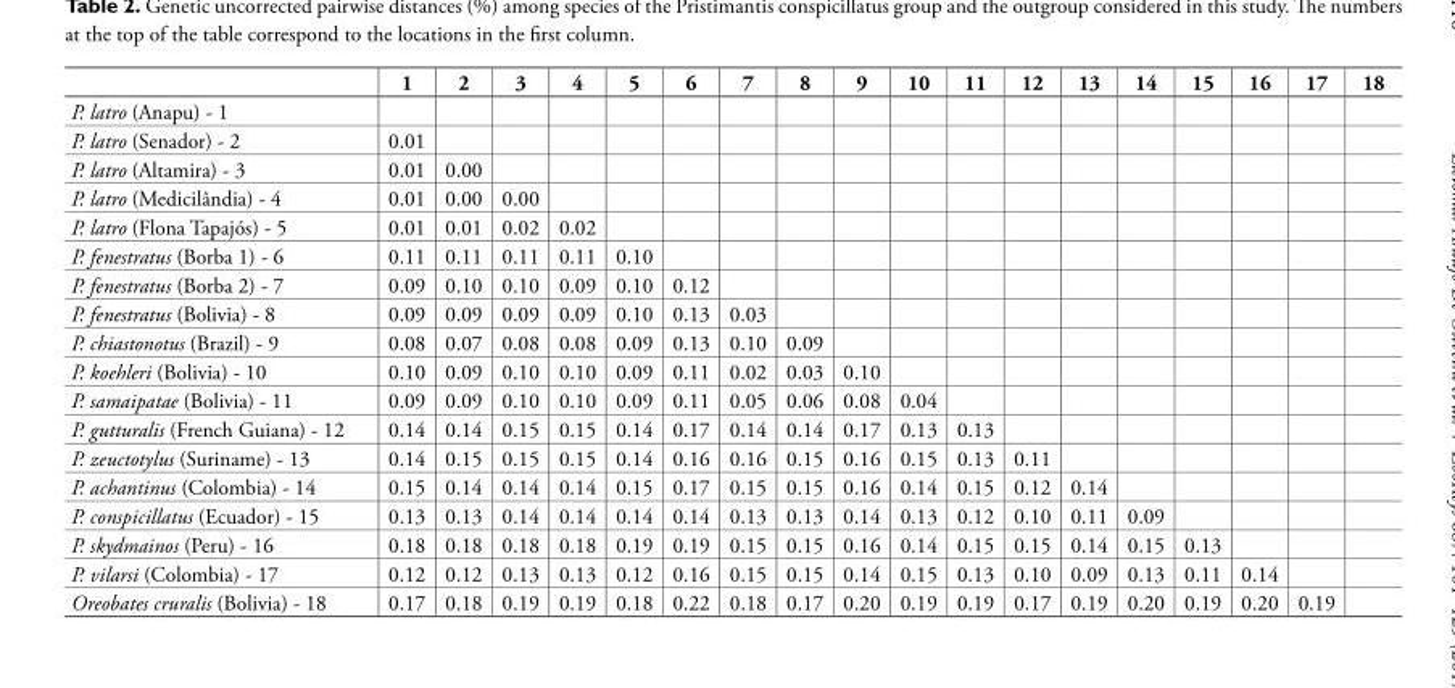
<table><thead><tr><td></td><td>1</td><td>2</td><td>3</td><td>4</td><td>5</td><td>6</td><td>7</td><td>8</td><td>9</td><td>10</td><td>11</td><td>12</td><td>13</td><td>14</td><td>15</td><td>16</td><td>17</td><td>18</td></tr></thead><tbody><tr><td colspan="19">P. latro (Anapu) - 1</td></tr><tr><td>P. latro (Senador) - 2</td><td>0.01</td><td></td><td></td><td></td><td></td><td></td><td></td><td></td><td></td><td></td><td></td><td></td><td></td><td></td><td></td><td></td><td></td><td></td></tr><tr><td>P. latro (Altamira) - 3</td><td>0.01</td><td>0.00</td><td></td><td></td><td></td><td></td><td></td><td></td><td></td><td></td><td></td><td></td><td></td><td></td><td></td><td></td><td></td><td></td></tr><tr><td>P. latro (Medicilândia) - 4</td><td>0.01</td><td>0.00</td><td>0.00</td><td></td><td></td><td></td><td></td><td></td><td></td><td></td><td></td><td></td><td></td><td></td><td></td><td></td><td></td><td></td></tr><tr><td>P. latro (Flona Tapajós) - 5</td><td>0.01</td><td>0.01</td><td>0.02</td><td>0.02</td><td></td><td></td><td></td><td></td><td></td><td></td><td></td><td></td><td></td><td></td><td></td><td></td><td></td><td></td></tr><tr><td>P. fenestratus (Borba 1) - 6</td><td>0.11</td><td>0.11</td><td>0.11</td><td>0.11</td><td>0.10</td><td></td><td></td><td></td><td></td><td></td><td></td><td></td><td></td><td></td><td></td><td></td><td></td><td></td></tr><tr><td>P. fenestratus (Borba 2) - 7</td><td>0.09</td><td>0.10</td><td>0.10</td><td>0.09</td><td>0.10</td><td>0.12</td><td></td><td></td><td></td><td></td><td></td><td></td><td></td><td></td><td></td><td></td><td></td><td></td></tr><tr><td>P. fenestratus (Bolivia) - 8</td><td>0.09</td><td>0.09</td><td>0.09</td><td>0.09</td><td>0.10</td><td>0.13</td><td>0.03</td><td></td><td></td><td></td><td></td><td></td><td></td><td></td><td></td><td></td><td></td><td></td></tr><tr><td>P. chiastonotus (Brazil) - 9</td><td>0.08</td><td>0.07</td><td>0.08</td><td>0.08</td><td>0.09</td><td>0.13</td><td>0.10</td><td>0.09</td><td></td><td></td><td></td><td></td><td></td><td></td><td></td><td></td><td></td><td></td></tr><tr><td>P. koehleri (Bolivia) - 10</td><td>0.10</td><td>0.09</td><td>0.10</td><td>0.10</td><td>0.09</td><td>0.11</td><td>0.02</td><td>0.03</td><td>0.10</td><td></td><td></td><td></td><td></td><td></td><td></td><td></td><td></td><td></td></tr><tr><td>P. samaipatae (Bolivia) - 11</td><td>0.09</td><td>0.09</td><td>0.10</td><td>0.10</td><td>0.09</td><td>0.11</td><td>0.05</td><td>0.06</td><td>0.08</td><td>0.04</td><td></td><td></td><td></td><td></td><td></td><td></td><td></td><td></td></tr><tr><td>P. gutturalis (French Guiana) - 12</td><td>0.14</td><td>0.14</td><td>0.15</td><td>0.15</td><td>0.14</td><td>0.17</td><td>0.14</td><td>0.14</td><td>0.17</td><td>0.13</td><td>0.13</td><td></td><td></td><td></td><td></td><td></td><td></td><td></td></tr><tr><td>P. zeuctotylus (Suriname) - 13</td><td>0.14</td><td>0.15</td><td>0.15</td><td>0.15</td><td>0.14</td><td>0.16</td><td>0.16</td><td>0.15</td><td>0.16</td><td>0.15</td><td>0.13</td><td>0.11</td><td></td><td></td><td></td><td></td><td></td><td></td></tr><tr><td>P. achantinus (Colombia) - 14</td><td>0.15</td><td>0.14</td><td>0.14</td><td>0.14</td><td>0.15</td><td>0.17</td><td>0.15</td><td>0.15</td><td>0.16</td><td>0.14</td><td>0.15</td><td>0.12</td><td>0.14</td><td></td><td></td><td></td><td></td><td></td></tr><tr><td>P. conspicillatus (Ecuador) - 15</td><td>0.13</td><td>0.13</td><td>0.14</td><td>0.14</td><td>0.14</td><td>0.14</td><td>0.13</td><td>0.13</td><td>0.14</td><td>0.13</td><td>0.12</td><td>0.10</td><td>0.11</td><td>0.09</td><td></td><td></td><td></td><td></td></tr><tr><td>P. skydmainos (Peru) - 16</td><td>0.18</td><td>0.18</td><td>0.18</td><td>0.18</td><td>0.19</td><td>0.19</td><td>0.15</td><td>0.15</td><td>0.16</td><td>0.14</td><td>0.15</td><td>0.15</td><td>0.14</td><td>0.15</td><td>0.13</td><td></td><td></td><td></td></tr><tr><td>P. vilarsi (Colombia) - 17</td><td>0.12</td><td>0.12</td><td>0.13</td><td>0.13</td><td>0.12</td><td>0.16</td><td>0.15</td><td>0.15</td><td>0.14</td><td>0.15</td><td>0.13</td><td>0.10</td><td>0.09</td><td>0.13</td><td>0.11</td><td>0.14</td><td></td><td></td></tr><tr><td>Oreobates cruralis (Bolivia) - 18</td><td>0.17</td><td>0.18</td><td>0.19</td><td>0.19</td><td>0.18</td><td>0.22</td><td>0.18</td><td>0.17</td><td>0.20</td><td>0.19</td><td>0.19</td><td>0.17</td><td>0.19</td><td>0.20</td><td>0.19</td><td>0.20</td><td>0.19</td><td></td></tr></tbody></table>